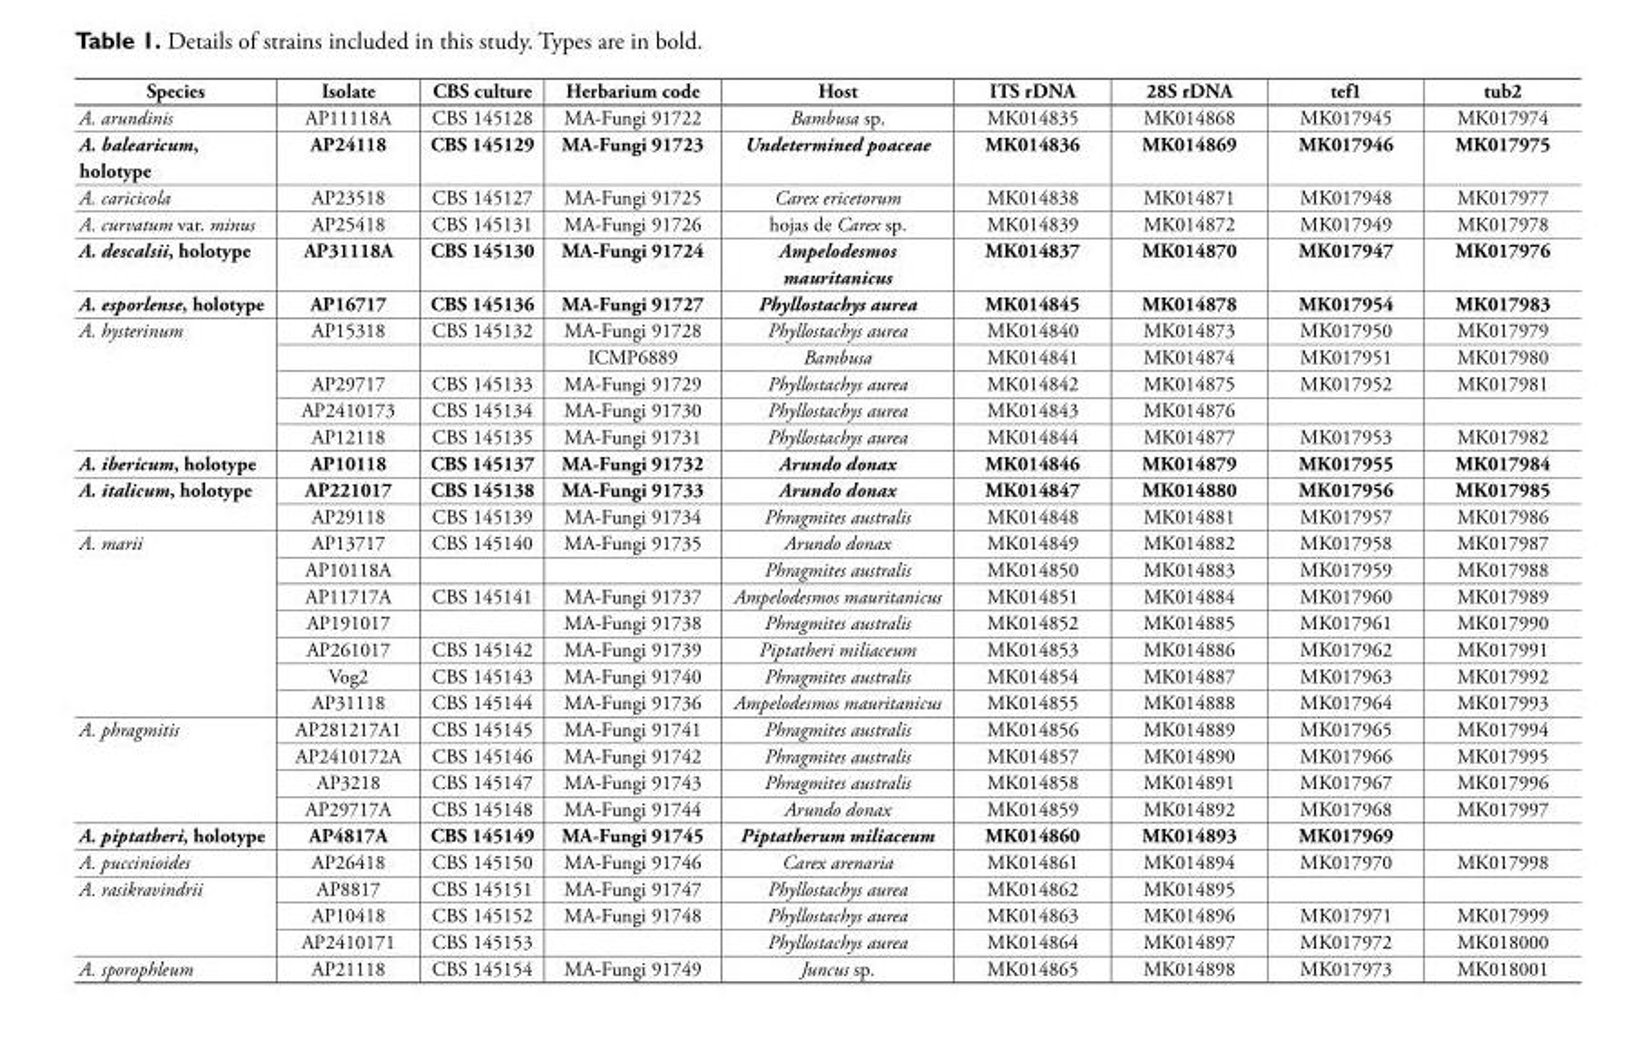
<table><tbody><tr><td>Species</td><td>Isolate</td><td>CBS culture</td><td>Herbarium code</td><td>Host</td><td>ITS rDNA</td><td>28S rDNA</td><td>tef1</td><td>tub2</td></tr><tr><td>A. arundinis</td><td>AP11118A</td><td>CBS 145128</td><td>MA-Fungi 91722</td><td>Bambusa sp.</td><td>MK014835</td><td>MK014868</td><td>MK017945</td><td>MK017974</td></tr><tr><td>A. balearicum, holotype</td><td>AP24118</td><td>CBS 145129</td><td>MA-Fungi 91723</td><td>Undetermined poaceae</td><td>MK014836</td><td>MK014869</td><td>MK017946</td><td>MK017975</td></tr><tr><td>A. caricicola</td><td>AP23518</td><td>CBS 145127</td><td>MA-Fungi 91725</td><td>Carex ericetorum</td><td>MK014838</td><td>MK014871</td><td>MK017948</td><td>MK017977</td></tr><tr><td>A. curvatum var. minus</td><td>AP25418</td><td>CBS 145131</td><td>MA-Fungi 91726</td><td>hojas de Carex sp.</td><td>MK014839</td><td>MK014872</td><td>MK017949</td><td>MK017978</td></tr><tr><td>A. descalsii, holotype</td><td>AP31118A</td><td>CBS 145130</td><td>MA-Fungi 91724</td><td>Ampelodesmos mauritanicus</td><td>MK014837</td><td>MK014870</td><td>MK017947</td><td>MK017976</td></tr><tr><td>A. esporlense, holotype</td><td>AP16717</td><td>CBS 145136</td><td>MA-Fungi 91727</td><td>Phyllostachys aurea</td><td>MK014845</td><td>MK014878</td><td>MK017954</td><td>MK017983</td></tr><tr><td rowspan="5">A. hysterinum</td><td>AP15318</td><td>CBS 145132</td><td>MA-Fungi 91728</td><td>Phyllostachys aurea</td><td>MK014840</td><td>MK014873</td><td>MK017950</td><td>MK017979</td></tr><tr><td></td><td></td><td>ICMP6889</td><td>Bambusa</td><td>MK014841</td><td>MK014874</td><td>MK017951</td><td>MK017980</td></tr><tr><td>AP29717</td><td>CBS 145133</td><td>MA-Fungi 91729</td><td>Phyllostachys aurea</td><td>MK014842</td><td>MK014875</td><td>MK017952</td><td>MK017981</td></tr><tr><td>AP2410173</td><td>CBS 145134</td><td>MA-Fungi 91730</td><td>Phyllostachys aurea</td><td>MK014843</td><td>MK014876</td><td></td><td></td></tr><tr><td>AP12118</td><td>CBS 145135</td><td>MA-Fungi 91731</td><td>Phyllostachys aurea</td><td>MK014844</td><td>MK014877</td><td>MK017953</td><td>MK017982</td></tr><tr><td>A. ibericum, holotype</td><td>AP10118</td><td>CBS 145137</td><td>MA-Fungi 91732</td><td>Arundo donax</td><td>MK014846</td><td>MK014879</td><td>MK017955</td><td>MK017984</td></tr><tr><td rowspan="2">A. italicum, holotype</td><td>AP221017</td><td>CBS 145138</td><td>MA-Fungi 91733</td><td>Arundo donax</td><td>MK014847</td><td>MK014880</td><td>MK017956</td><td>MK017985</td></tr><tr><td>AP29118</td><td>CBS 145139</td><td>MA-Fungi 91734</td><td>Phragmites australis</td><td>MK014848</td><td>MK014881</td><td>MK017957</td><td>MK017986</td></tr><tr><td rowspan="7">A. marii</td><td>AP13717</td><td>CBS 145140</td><td>MA-Fungi 91735</td><td>Arundo donax</td><td>MK014849</td><td>MK014882</td><td>MK017958</td><td>MK017987</td></tr><tr><td>AP10118A</td><td></td><td></td><td>Phragmites australis</td><td>MK014850</td><td>MK014883</td><td>MK017959</td><td>MK017988</td></tr><tr><td>AP11717A</td><td>CBS 145141</td><td>MA-Fungi 91737</td><td>Ampelodesmos mauritanicus</td><td>MK014851</td><td>MK014884</td><td>MK017960</td><td>MK017989</td></tr><tr><td>AP191017</td><td></td><td>MA-Fungi 91738</td><td>Phragmites australis</td><td>MK014852</td><td>MK014885</td><td>MK017961</td><td>MK017990</td></tr><tr><td>AP261017</td><td>CBS 145142</td><td>MA-Fungi 91739</td><td>Piptatheri miliaceum</td><td>MK014853</td><td>MK014886</td><td>MK017962</td><td>MK017991</td></tr><tr><td>Vog2</td><td>CBS 145143</td><td>MA-Fungi 91740</td><td>Phragmites australis</td><td>MK014854</td><td>MK014887</td><td>MK017963</td><td>MK017992</td></tr><tr><td>AP31118</td><td>CBS 145144</td><td>MA-Fungi 91736</td><td>Ampelodesmos mauritanicus</td><td>MK014855</td><td>MK014888</td><td>MK017964</td><td>MK017993</td></tr><tr><td rowspan="4">A. phragmitis</td><td>AP281217A1</td><td>CBS 145145</td><td>MA-Fungi 91741</td><td>Phragmites australis</td><td>MK014856</td><td>MK014889</td><td>MK017965</td><td>MK017994</td></tr><tr><td>AP2410172A</td><td>CBS 145146</td><td>MA-Fungi 91742</td><td>Phragmites australis</td><td>MK014857</td><td>MK014890</td><td>MK017966</td><td>MK017995</td></tr><tr><td>AP3218</td><td>CBS 145147</td><td>MA-Fungi 91743</td><td>Phragmites australis</td><td>MK014858</td><td>MK014891</td><td>MK017967</td><td>MK017996</td></tr><tr><td>AP29717A</td><td>CBS 145148</td><td>MA-Fungi 91744</td><td>Arundo donax</td><td>MK014859</td><td>MK014892</td><td>MK017968</td><td>MK017997</td></tr><tr><td>A. piptatheri, holotype</td><td>AP4817A</td><td>CBS 145149</td><td>MA-Fungi 91745</td><td>Piptatherum miliaceum</td><td>MK014860</td><td>MK014893</td><td>MK017969</td><td></td></tr><tr><td>A. puccinioides</td><td>AP26418</td><td>CBS 145150</td><td>MA-Fungi 91746</td><td>Carex arenaria</td><td>MK014861</td><td>MK014894</td><td>MK017970</td><td>MK017998</td></tr><tr><td rowspan="3">A. rasikravindrii</td><td>AP8817</td><td>CBS 145151</td><td>MA-Fungi 91747</td><td>Phyllostachys aurea</td><td>MK014862</td><td>MK014895</td><td></td><td></td></tr><tr><td>AP10418</td><td>CBS 145152</td><td>MA-Fungi 91748</td><td>Phyllostachys aurea</td><td>MK014863</td><td>MK014896</td><td>MK017971</td><td>MK017999</td></tr><tr><td>AP2410171</td><td>CBS 145153</td><td></td><td>Phyllostachys aurea</td><td>MK014864</td><td>MK014897</td><td>MK017972</td><td>MK018000</td></tr><tr><td>A. sporophleum</td><td>AP21118</td><td>CBS 145154</td><td>MA-Fungi 91749</td><td>Juncus sp.</td><td>MK014865</td><td>MK014898</td><td>MK017973</td><td>MK018001</td></tr></tbody></table>